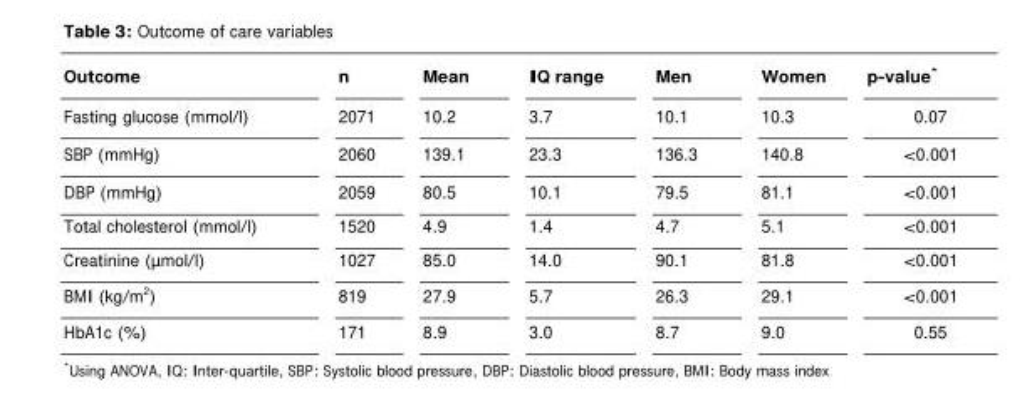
<table><thead><tr><td>Outcome</td><td>n</td><td>Mean</td><td>IQ range</td><td>Men</td><td>Women</td><td>p-value*</td></tr></thead><tbody><tr><td>Fasting glucose (mmol/l)</td><td>2071</td><td>10.2</td><td>3.7</td><td>10.1</td><td>10.3</td><td>0.07</td></tr><tr><td>SBP (mmHg)</td><td>2060</td><td>139.1</td><td>23.3</td><td>136.3</td><td>140.8</td><td>&lt;0.001</td></tr><tr><td>DBP (mmHg)</td><td>2059</td><td>80.5</td><td>10.1</td><td>79.5</td><td>81.1</td><td>&lt;0.001</td></tr><tr><td>Total cholesterol (mmol/l)</td><td>1520</td><td>4.9</td><td>1.4</td><td>4.7</td><td>5.1</td><td>&lt;0.001</td></tr><tr><td>Creatinine (µmol/l)</td><td>1027</td><td>85.0</td><td>14.0</td><td>90.1</td><td>81.8</td><td>&lt;0.001</td></tr><tr><td>BMI (kg/m<sup>2</sup>)</td><td>819</td><td>27.9</td><td>5.7</td><td>26.3</td><td>29.1</td><td>&lt;0.001</td></tr><tr><td>HbA1c (%)</td><td>171</td><td>8.9</td><td>3.0</td><td>8.7</td><td>9.0</td><td>0.55</td></tr></tbody></table>